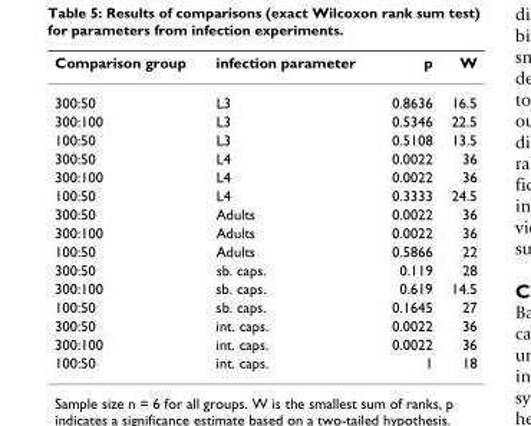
<table><thead><tr><td>Comparison group</td><td>infection parameter</td><td>p</td><td>W</td></tr></thead><tbody><tr><td>300:50</td><td>L3</td><td>0.8636</td><td>16.5</td></tr><tr><td>300:100</td><td>L3</td><td>0.5346</td><td>22.5</td></tr><tr><td>100:50</td><td>L3</td><td>0.5108</td><td>13.5</td></tr><tr><td>300:50</td><td>L4</td><td>0.0022</td><td>36</td></tr><tr><td>300:100</td><td>L4</td><td>0.0022</td><td>36</td></tr><tr><td>100:50</td><td>L4</td><td>0.3333</td><td>24.5</td></tr><tr><td>300:50</td><td>Adults</td><td>0.0022</td><td>36</td></tr><tr><td>300:100</td><td>Adults</td><td>0.0022</td><td>36</td></tr><tr><td>100:50</td><td>Adults</td><td>0.5866</td><td>22</td></tr><tr><td>300:50</td><td>sb. caps.</td><td>0.119</td><td>28</td></tr><tr><td>300:100</td><td>sb. caps.</td><td>0.619</td><td>14.5</td></tr><tr><td>100:50</td><td>sb. caps.</td><td>0.1645</td><td>27</td></tr><tr><td>300:50</td><td>int. caps.</td><td>0.0022</td><td>36</td></tr><tr><td>300:100</td><td>int. caps.</td><td>0.0022</td><td>36</td></tr><tr><td>100:50</td><td>int. caps.</td><td>1</td><td>18</td></tr></tbody></table>